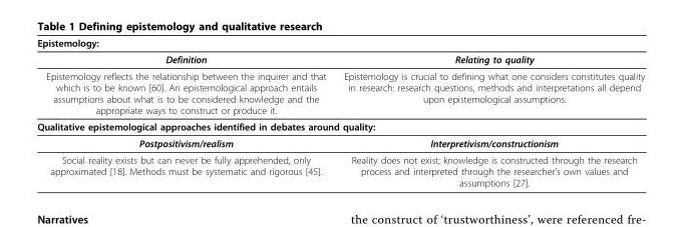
<table><thead><tr><td colspan="2">Epistemology:</td></tr><tr><td>Definition</td><td>Relating to quality</td></tr></thead><tbody><tr><td>Epistemology reflects the relationship between the inquirer and that which is to be known [60]. An epistemological approach entails assumptions about what is to be considered knowledge and the appropriate ways to construct or produce it.</td><td>Epistemology is crucial to defining what one considers constitutes quality in research: research questions, methods and interpretations all depend upon epistemological assumptions.</td></tr><tr><td colspan="2">Qualitative epistemological approaches identified in debates around quality:</td></tr><tr><td>Postpositivism/realism</td><td>Interpretivism/constructionism</td></tr><tr><td>Social reality exists but can never be fully apprehended, only approximated [18]. Methods must be systematic and rigorous [45].</td><td>Reality does not exist; knowledge is constructed through the research process and interpreted through the researcher’s own values and assumptions [27].</td></tr></tbody></table>